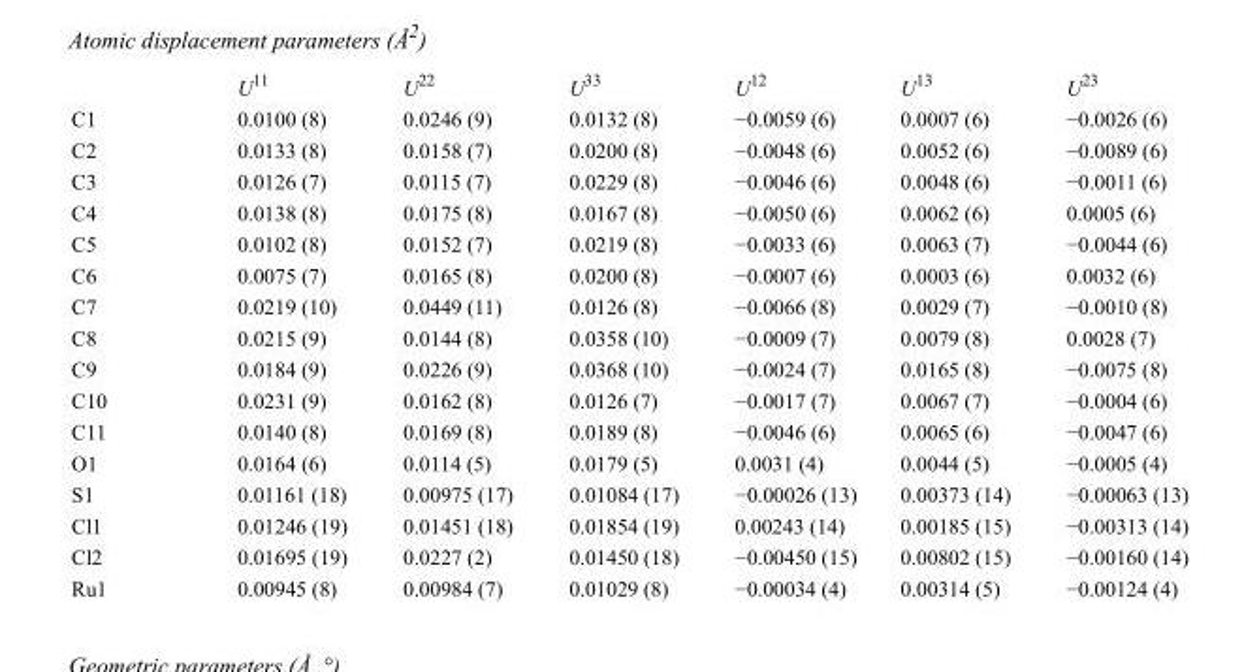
<table><thead><tr><td></td><td>U<sup>11</sup></td><td>U<sup>22</sup></td><td>U<sup>33</sup></td><td>U<sup>12</sup></td><td>U<sup>13</sup></td><td>U<sup>23</sup></td></tr></thead><tbody><tr><td>C1</td><td>0.0100 (8)</td><td>0.0246 (9)</td><td>0.0132 (8)</td><td>−0.0059 (6)</td><td>0.0007 (6)</td><td>−0.0026 (6)</td></tr><tr><td>C2</td><td>0.0133 (8)</td><td>0.0158 (7)</td><td>0.0200 (8)</td><td>−0.0048 (6)</td><td>0.0052 (6)</td><td>−0.0089 (6)</td></tr><tr><td>C3</td><td>0.0126 (7)</td><td>0.0115 (7)</td><td>0.0229 (8)</td><td>−0.0046 (6)</td><td>0.0048 (6)</td><td>−0.0011 (6)</td></tr><tr><td>C4</td><td>0.0138 (8)</td><td>0.0175 (8)</td><td>0.0167 (8)</td><td>−0.0050 (6)</td><td>0.0062 (6)</td><td>0.0005 (6)</td></tr><tr><td>C5</td><td>0.0102 (8)</td><td>0.0152 (7)</td><td>0.0219 (8)</td><td>−0.0033 (6)</td><td>0.0063 (7)</td><td>−0.0044 (6)</td></tr><tr><td>C6</td><td>0.0075 (7)</td><td>0.0165 (8)</td><td>0.0200 (8)</td><td>−0.0007 (6)</td><td>0.0003 (6)</td><td>0.0032 (6)</td></tr><tr><td>C7</td><td>0.0219 (10)</td><td>0.0449 (11)</td><td>0.0126 (8)</td><td>−0.0066 (8)</td><td>0.0029 (7)</td><td>−0.0010 (8)</td></tr><tr><td>C8</td><td>0.0215 (9)</td><td>0.0144 (8)</td><td>0.0358 (10)</td><td>−0.0009 (7)</td><td>0.0079 (8)</td><td>0.0028 (7)</td></tr><tr><td>C9</td><td>0.0184 (9)</td><td>0.0226 (9)</td><td>0.0368 (10)</td><td>−0.0024 (7)</td><td>0.0165 (8)</td><td>−0.0075 (8)</td></tr><tr><td>C10</td><td>0.0231 (9)</td><td>0.0162 (8)</td><td>0.0126 (7)</td><td>−0.0017 (7)</td><td>0.0067 (7)</td><td>−0.0004 (6)</td></tr><tr><td>C11</td><td>0.0140 (8)</td><td>0.0169 (8)</td><td>0.0189 (8)</td><td>−0.0046 (6)</td><td>0.0065 (6)</td><td>−0.0047 (6)</td></tr><tr><td>O1</td><td>0.0164 (6)</td><td>0.0114 (5)</td><td>0.0179 (5)</td><td>0.0031 (4)</td><td>0.0044 (5)</td><td>−0.0005 (4)</td></tr><tr><td>S1</td><td>0.01161 (18)</td><td>0.00975 (17)</td><td>0.01084 (17)</td><td>−0.00026 (13)</td><td>0.00373 (14)</td><td>−0.00063 (13)</td></tr><tr><td>Cl1</td><td>0.01246 (19)</td><td>0.01451 (18)</td><td>0.01854 (19)</td><td>0.00243 (14)</td><td>0.00185 (15)</td><td>−0.00313 (14)</td></tr><tr><td>Cl2</td><td>0.01695 (19)</td><td>0.0227 (2)</td><td>0.01450 (18)</td><td>−0.00450 (15)</td><td>0.00802 (15)</td><td>−0.00160 (14)</td></tr><tr><td>Ru1</td><td>0.00945 (8)</td><td>0.00984 (7)</td><td>0.01029 (8)</td><td>−0.00034 (4)</td><td>0.00314 (5)</td><td>−0.00124 (4)</td></tr></tbody></table>